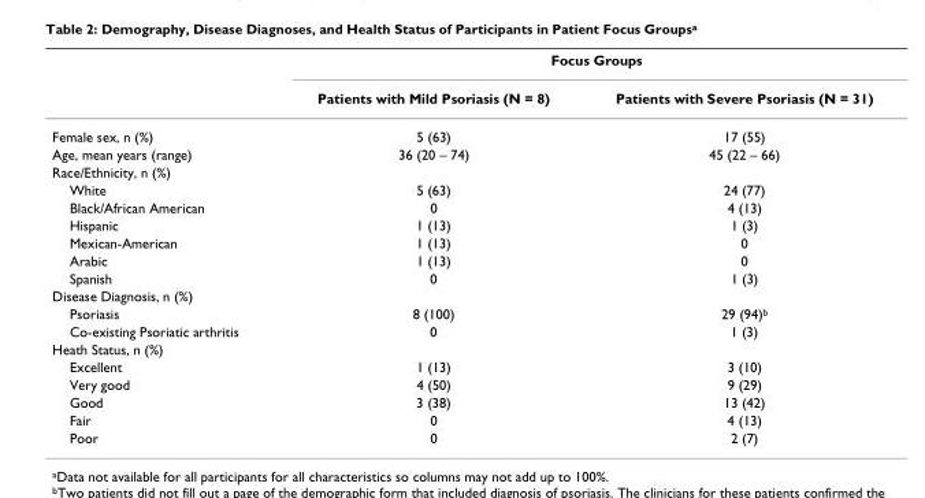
<table><thead><tr><td rowspan="2"></td><td colspan="2">Focus Groups</td></tr><tr><td>Patients with Mild Psoriasis (N = 8)</td><td>Patients with Severe Psoriasis (N = 31)</td></tr></thead><tbody><tr><td>Female sex, n (%)</td><td>5 (63)</td><td>17 (55)</td></tr><tr><td>Age, mean years (range)</td><td>36 (20 – 74)</td><td>45 (22 – 66)</td></tr><tr><td colspan="3">Race/Ethnicity, n (%)</td></tr><tr><td>White</td><td>5 (63)</td><td>24 (77)</td></tr><tr><td>Black/African American</td><td>0</td><td>4 (13)</td></tr><tr><td>Hispanic</td><td>1 (13)</td><td>1 (3)</td></tr><tr><td>Mexican-American</td><td>1 (13)</td><td>0</td></tr><tr><td>Arabic</td><td>1 (13)</td><td>0</td></tr><tr><td>Spanish</td><td>0</td><td>1 (3)</td></tr><tr><td colspan="3">Disease Diagnosis, n (%)</td></tr><tr><td>Psoriasis</td><td>8 (100)</td><td>29 (94)<sup>b</sup></td></tr><tr><td>Co-existing Psoriatic arthritis</td><td>0</td><td>1 (3)</td></tr><tr><td colspan="3">Heath Status, n (%)</td></tr><tr><td>Excellent</td><td>1 (13)</td><td>3 (10)</td></tr><tr><td>Very good</td><td>4 (50)</td><td>9 (29)</td></tr><tr><td>Good</td><td>3 (38)</td><td>13 (42)</td></tr><tr><td>Fair</td><td>0</td><td>4 (13)</td></tr><tr><td>Poor</td><td>0</td><td>2 (7)</td></tr></tbody></table>